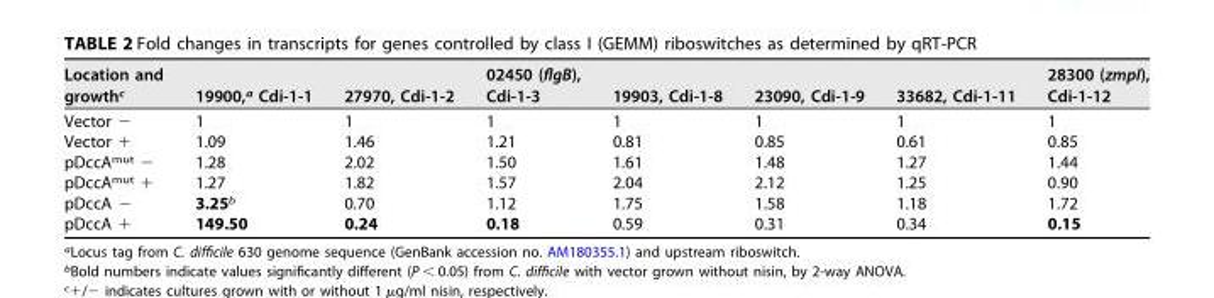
<table><thead><tr><td>Location and growth<sup>c</sup></td><td>19900,<sup>a</sup> Cdi-1-1</td><td>27970, Cdi-1-2</td><td>02450 (flgB), Cdi-1-3</td><td>19903, Cdi-1-8</td><td>23090, Cdi-1-9</td><td>33682, Cdi-1-11</td><td>28300 (zmpI), Cdi-1-12</td></tr></thead><tbody><tr><td>Vector −</td><td>1</td><td>1</td><td>1</td><td>1</td><td>1</td><td>1</td><td>1</td></tr><tr><td>Vector +</td><td>1.09</td><td>1.46</td><td>1.21</td><td>0.81</td><td>0.85</td><td>0.61</td><td>0.85</td></tr><tr><td>pDccA<sup>mut</sup> −</td><td>1.28</td><td>2.02</td><td>1.50</td><td>1.61</td><td>1.48</td><td>1.27</td><td>1.44</td></tr><tr><td>pDccA<sup>mut</sup> +</td><td>1.27</td><td>1.82</td><td>1.57</td><td>2.04</td><td>2.12</td><td>1.25</td><td>0.90</td></tr><tr><td>pDccA −</td><td>3.25<sup>b</sup></td><td>0.70</td><td>1.12</td><td>1.75</td><td>1.58</td><td>1.18</td><td>1.72</td></tr><tr><td>pDccA +</td><td>149.50</td><td>0.24</td><td>0.18</td><td>0.59</td><td>0.31</td><td>0.34</td><td>0.15</td></tr></tbody></table>